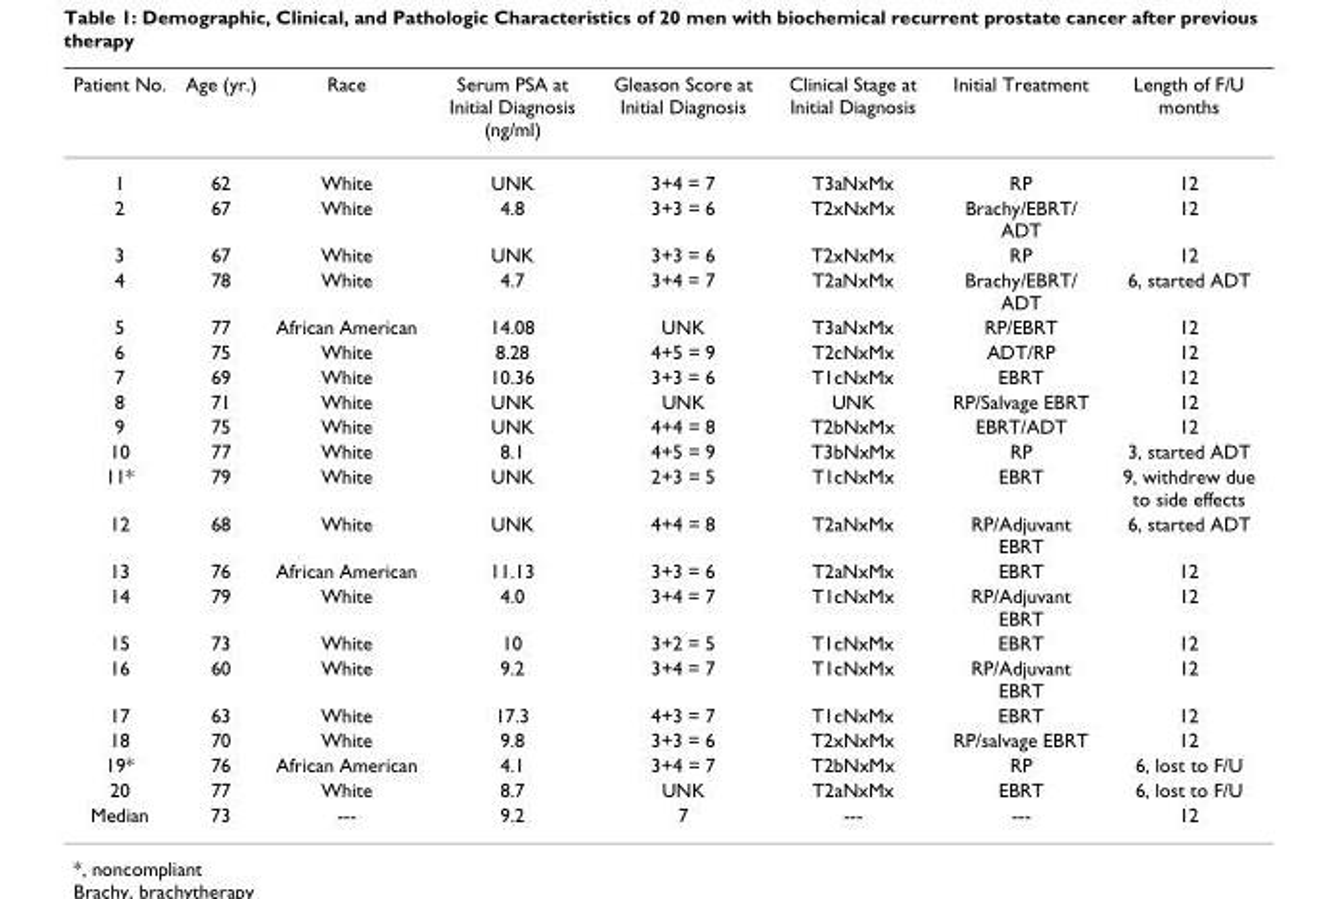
<table><thead><tr><td>Patient No.</td><td>Age (yr.)</td><td>Race</td><td>Serum PSA at Initial Diagnosis (ng/ml)</td><td>Gleason Score at Initial Diagnosis</td><td>Clinical Stage at Initial Diagnosis</td><td>Initial Treatment</td><td>Length of F/U months</td></tr></thead><tbody><tr><td>1</td><td>62</td><td>White</td><td>UNK</td><td>3+4 = 7</td><td>T3aNxMx</td><td>RP</td><td>12</td></tr><tr><td>2</td><td>67</td><td>White</td><td>4.8</td><td>3+3 = 6</td><td>T2xNxMx</td><td>Brachy/EBRT/ ADT</td><td>12</td></tr><tr><td>3</td><td>67</td><td>White</td><td>UNK</td><td>3+3 = 6</td><td>T2xNxMx</td><td>RP</td><td>12</td></tr><tr><td>4</td><td>78</td><td>White</td><td>4.7</td><td>3+4 = 7</td><td>T2aNxMx</td><td>Brachy/EBRT/ ADT</td><td>6, started ADT</td></tr><tr><td>5</td><td>77</td><td>African American</td><td>14.08</td><td>UNK</td><td>T3aNxMx</td><td>RP/EBRT</td><td>12</td></tr><tr><td>6</td><td>75</td><td>White</td><td>8.28</td><td>4+5 = 9</td><td>T2cNxMx</td><td>ADT/RP</td><td>12</td></tr><tr><td>7</td><td>69</td><td>White</td><td>10.36</td><td>3+3 = 6</td><td>T1cNxMx</td><td>EBRT</td><td>12</td></tr><tr><td>8</td><td>71</td><td>White</td><td>UNK</td><td>UNK</td><td>UNK</td><td>RP/Salvage EBRT</td><td>12</td></tr><tr><td>9</td><td>75</td><td>White</td><td>UNK</td><td>4+4 = 8</td><td>T2bNxMx</td><td>EBRT/ADT</td><td>12</td></tr><tr><td>10</td><td>77</td><td>White</td><td>8.1</td><td>4+5 = 9</td><td>T3bNxMx</td><td>RP</td><td>3, started ADT</td></tr><tr><td>11*</td><td>79</td><td>White</td><td>UNK</td><td>2+3 = 5</td><td>T1cNxMx</td><td>EBRT</td><td>9, withdrew due to side effects</td></tr><tr><td>12</td><td>68</td><td>White</td><td>UNK</td><td>4+4 = 8</td><td>T2aNxMx</td><td>RP/Adjuvant EBRT</td><td>6, started ADT</td></tr><tr><td>13</td><td>76</td><td>African American</td><td>11.13</td><td>3+3 = 6</td><td>T2aNxMx</td><td>EBRT</td><td>12</td></tr><tr><td>14</td><td>79</td><td>White</td><td>4.0</td><td>3+4 = 7</td><td>T1cNxMx</td><td>RP/Adjuvant EBRT</td><td>12</td></tr><tr><td>15</td><td>73</td><td>White</td><td>10</td><td>3+2 = 5</td><td>T1cNxMx</td><td>EBRT</td><td>12</td></tr><tr><td>16</td><td>60</td><td>White</td><td>9.2</td><td>3+4 = 7</td><td>T1cNxMx</td><td>RP/Adjuvant EBRT</td><td>12</td></tr><tr><td>17</td><td>63</td><td>White</td><td>17.3</td><td>4+3 = 7</td><td>T1cNxMx</td><td>EBRT</td><td>12</td></tr><tr><td>18</td><td>70</td><td>White</td><td>9.8</td><td>3+3 = 6</td><td>T2xNxMx</td><td>RP/salvage EBRT</td><td>12</td></tr><tr><td>19*</td><td>76</td><td>African American</td><td>4.1</td><td>3+4 = 7</td><td>T2bNxMx</td><td>RP</td><td>6, lost to F/U</td></tr><tr><td>20</td><td>77</td><td>White</td><td>8.7</td><td>UNK</td><td>T2aNxMx</td><td>EBRT</td><td>6, lost to F/U</td></tr><tr><td>Median</td><td>73</td><td>---</td><td>9.2</td><td>7</td><td>---</td><td>---</td><td>12</td></tr></tbody></table>